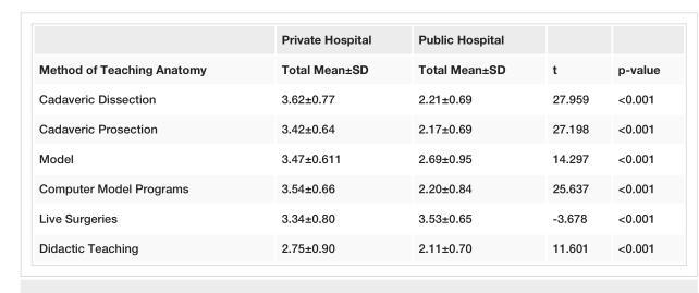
<table><thead><tr><td></td><td>Private Hospital</td><td>Public Hospital</td><td></td><td></td></tr></thead><tbody><tr><td>Method of Teaching Anatomy</td><td>Total Mean±SD</td><td>Total Mean±SD</td><td>t</td><td>p-value</td></tr><tr><td>Cadaveric Dissection</td><td>3.62±0.77</td><td>2.21±0.69</td><td>27.959</td><td>&lt;0.001</td></tr><tr><td>Cadaveric Prosection</td><td>3.42±0.64</td><td>2.17±0.69</td><td>27.198</td><td>&lt;0.001</td></tr><tr><td>Model</td><td>3.47±0.611</td><td>2.69±0.95</td><td>14.297</td><td>&lt;0.001</td></tr><tr><td>Computer Model Programs</td><td>3.54±0.66</td><td>2.20±0.84</td><td>25.637</td><td>&lt;0.001</td></tr><tr><td>Live Surgeries</td><td>3.34±0.80</td><td>3.53±0.65</td><td>-3.678</td><td>&lt;0.001</td></tr><tr><td>Didactic Teaching</td><td>2.75±0.90</td><td>2.11±0.70</td><td>11.601</td><td>&lt;0.001</td></tr></tbody></table>